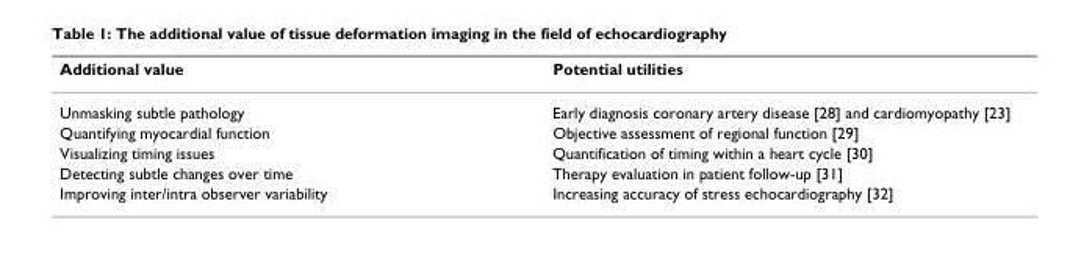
<table><thead><tr><td>Additional value</td><td>Potential utilities</td></tr></thead><tbody><tr><td>Unmasking subtle pathology</td><td>Early diagnosis coronary artery disease [28] and cardiomyopathy [23]</td></tr><tr><td>Quantifying myocardial function</td><td>Objective assessment of regional function [29]</td></tr><tr><td>Visualizing timing issues</td><td>Quantification of timing within a heart cycle [30]</td></tr><tr><td>Detecting subtle changes over time</td><td>Therapy evaluation in patient follow-up [31]</td></tr><tr><td>Improving inter/intra observer variability</td><td>Increasing accuracy of stress echocardiography [32]</td></tr></tbody></table>